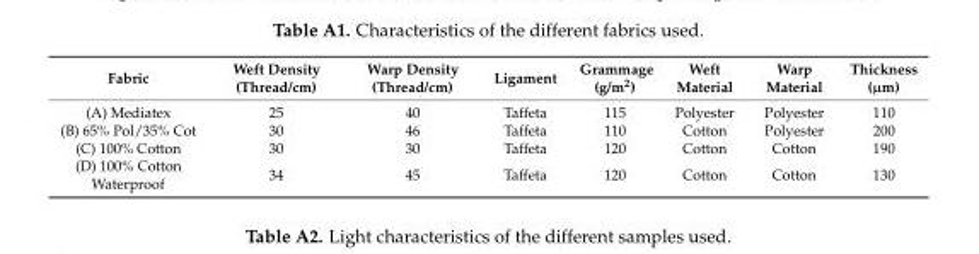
<table><thead><tr><td>Fabric</td><td>Weft Density (Thread/cm)</td><td>Warp Density (Thread/cm)</td><td>Ligament</td><td>Grammage (g/m<sup>2</sup>)</td><td>Weft Material</td><td>Warp Material</td><td>Thickness (µm)</td></tr></thead><tbody><tr><td>(A) Mediatex</td><td>25</td><td>40</td><td>Taffeta</td><td>115</td><td>Polyester</td><td>Polyester</td><td>110</td></tr><tr><td>(B) 65% Pol/35% Cot</td><td>30</td><td>46</td><td>Taffeta</td><td>110</td><td>Cotton</td><td>Polyester</td><td>200</td></tr><tr><td>(C) 100% Cotton</td><td>30</td><td>30</td><td>Taffeta</td><td>120</td><td>Cotton</td><td>Cotton</td><td>190</td></tr><tr><td>(D) 100% Cotton Waterproof</td><td>34</td><td>45</td><td>Taffeta</td><td>120</td><td>Cotton</td><td>Cotton</td><td>130</td></tr></tbody></table>